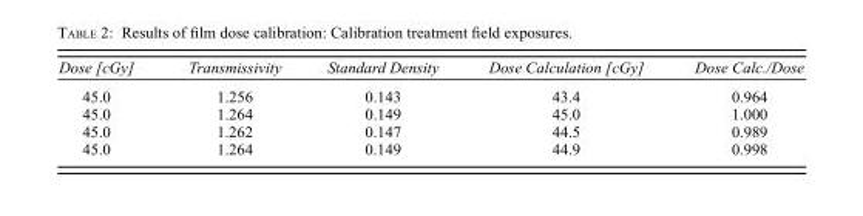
<table><thead><tr><td>Dose [cGy]</td><td>Transmissivity</td><td>Standard Density</td><td>Dose Calculation [cGy]</td><td>Dose Calc./Dose</td></tr></thead><tbody><tr><td>45.0</td><td>1.256</td><td>0.143</td><td>43.4</td><td>0.964</td></tr><tr><td>45.0</td><td>1.264</td><td>0.149</td><td>45.0</td><td>1.000</td></tr><tr><td>45.0</td><td>1.262</td><td>0.147</td><td>44.5</td><td>0.989</td></tr><tr><td>45.0</td><td>1.264</td><td>0.149</td><td>44.9</td><td>0.998</td></tr></tbody></table>